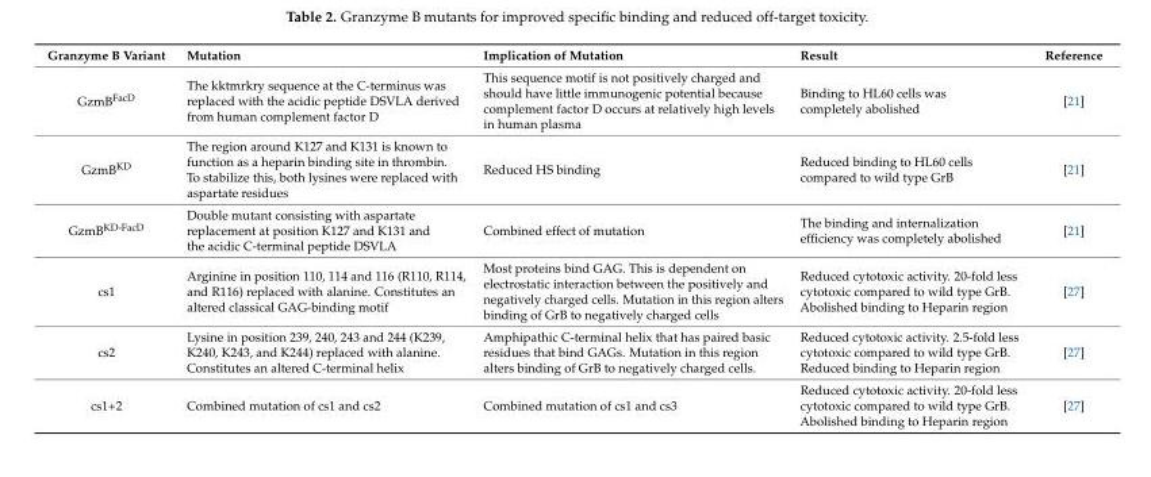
<table><thead><tr><td>Granzyme B Variant</td><td>Mutation</td><td>Implication of Mutation</td><td>Result</td><td>Reference</td></tr></thead><tbody><tr><td>GzmB<sup>FacD</sup></td><td>The kktmrkry sequence at the C-terminus was replaced with the acidic peptide DSVLA derived from human complement factor D</td><td>This sequence motif is not positively charged and should have little immunogenic potential because complement factor D occurs at relatively high levels in human plasma</td><td>Binding to HL60 cells was completely abolished</td><td>[21]</td></tr><tr><td>GzmB<sup>KD</sup></td><td>The region around K127 and K131 is known to function as a heparin binding site in thrombin. To stabilize this, both lysines were replaced with aspartate residues</td><td>Reduced HS binding</td><td>Reduced binding to HL60 cells compared to wild type GrB</td><td>[21]</td></tr><tr><td>GzmB<sup>KD-FacD</sup></td><td>Double mutant consisting with aspartate replacement at position K127 and K131 and the acidic C-terminal peptide DSVLA</td><td>Combined effect of mutation</td><td>The binding and internalization efficiency was completely abolished</td><td>[21]</td></tr><tr><td>cs1</td><td>Arginine in position 110, 114 and 116 (R110, R114, and R116) replaced with alanine. Constitutes an altered classical GAG-binding motif</td><td>Most proteins bind GAG. This is dependent on electrostatic interaction between the positively and negatively charged cells. Mutation in this region alters binding of GrB to negatively charged cells</td><td>Reduced cytotoxic activity. 20-fold less cytotoxic compared to wild type GrB. Abolished binding to Heparin region</td><td>[27]</td></tr><tr><td>cs2</td><td>Lysine in position 239, 240, 243 and 244 (K239, K240, K243, and K244) replaced with alanine. Constitutes an altered C-terminal helix</td><td>Amphipathic C-terminal helix that has paired basic residues that bind GAGs. Mutation in this region alters binding of GrB to negatively charged cells.</td><td>Reduced cytotoxic activity. 2.5-fold less cytotoxic compared to wild type GrB. Reduced binding to Heparin region</td><td>[27]</td></tr><tr><td>cs1+2</td><td>Combined mutation of cs1 and cs2</td><td>Combined mutation of cs1 and cs3</td><td>Reduced cytotoxic activity. 20-fold less cytotoxic compared to wild type GrB. Abolished binding to Heparin region</td><td>[27]</td></tr></tbody></table>